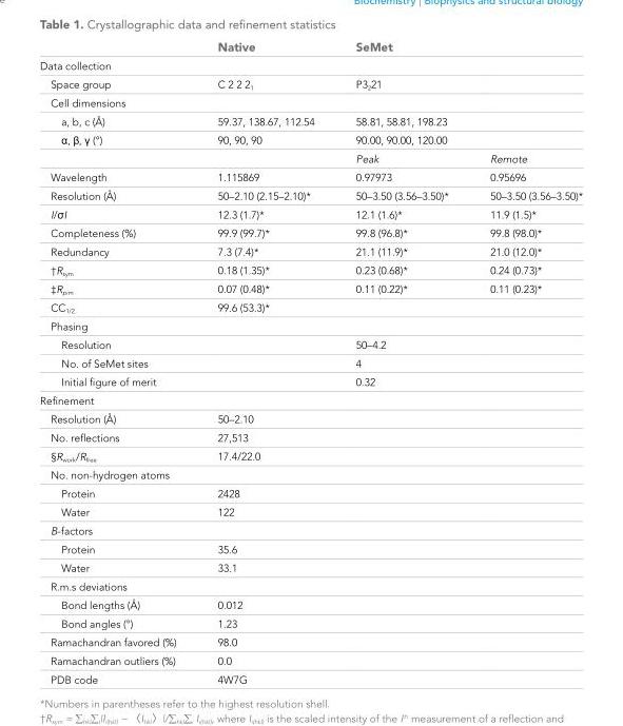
<table><thead><tr><td></td><td>Native</td><td colspan="2">SeMet</td></tr></thead><tbody><tr><td colspan="4">Data collection</td></tr><tr><td>Space group</td><td>C 2 2 2<sub>1</sub></td><td colspan="2">P3<sub>2</sub>21</td></tr><tr><td colspan="4">Cell dimensions</td></tr><tr><td>a, b, c (Å)</td><td>59.37, 138.67, 112.54</td><td colspan="2">58.81, 58.81, 198.23</td></tr><tr><td rowspan="2">α, β, γ (°)</td><td>90, 90, 90</td><td colspan="2">90.00, 90.00, 120.00</td></tr><tr><td></td><td>Peak</td><td>Remote</td></tr><tr><td>Wavelength</td><td>1.115869</td><td>0.97973</td><td>0.95696</td></tr><tr><td>Resolution (Å)</td><td>50–2.10 (2.15–2.10)*</td><td>50–3.50 (3.56–3.50)*</td><td>50–3.50 (3.56–3.50)*</td></tr><tr><td>I/σI</td><td>12.3 (1.7)*</td><td>12.1 (1.6)*</td><td>11.9 (1.5)*</td></tr><tr><td>Completeness (%)</td><td>99.9 (99.7)*</td><td>99.8 (96.8)*</td><td>99.8 (98.0)*</td></tr><tr><td>Redundancy</td><td>7.3 (7.4)*</td><td>21.1 (11.9)*</td><td>21.0 (12.0)*</td></tr><tr><td>†R<sub>sym</sub></td><td>0.18 (1.35)*</td><td>0.23 (0.68)*</td><td>0.24 (0.73)*</td></tr><tr><td>‡R<sub>pim</sub></td><td>0.07 (0.48)*</td><td>0.11 (0.22)*</td><td>0.11 (0.23)*</td></tr><tr><td>CC<sub>1/2</sub></td><td>99.6 (53.3)*</td><td colspan="2"></td></tr><tr><td colspan="4">Phasing</td></tr><tr><td>Resolution</td><td></td><td colspan="2">50–4.2</td></tr><tr><td>No. of SeMet sites</td><td></td><td colspan="2">4</td></tr><tr><td>Initial figure of merit</td><td></td><td colspan="2">0.32</td></tr><tr><td colspan="4">Refinement</td></tr><tr><td>Resolution (Å)</td><td>50–2.10</td><td colspan="2"></td></tr><tr><td>No. reflections</td><td>27,513</td><td colspan="2"></td></tr><tr><td>§R<sub>work</sub>/R<sub>free</sub></td><td>17.4/22.0</td><td colspan="2"></td></tr><tr><td colspan="4">No. non-hydrogen atoms</td></tr><tr><td>Protein</td><td>2428</td><td colspan="2"></td></tr><tr><td>Water</td><td>122</td><td colspan="2"></td></tr><tr><td colspan="4">B-factors</td></tr><tr><td>Protein</td><td>35.6</td><td colspan="2"></td></tr><tr><td>Water</td><td>33.1</td><td colspan="2"></td></tr><tr><td colspan="4">R.m.s deviations</td></tr><tr><td>Bond lengths (Å)</td><td>0.012</td><td colspan="2"></td></tr><tr><td>Bond angles (°)</td><td>1.23</td><td colspan="2"></td></tr><tr><td>Ramachandran favored (%)</td><td>98.0</td><td colspan="2"></td></tr><tr><td>Ramachandran outliers (%)</td><td>0.0</td><td colspan="2"></td></tr><tr><td>PDB code</td><td>4W7G</td><td colspan="2"></td></tr></tbody></table>